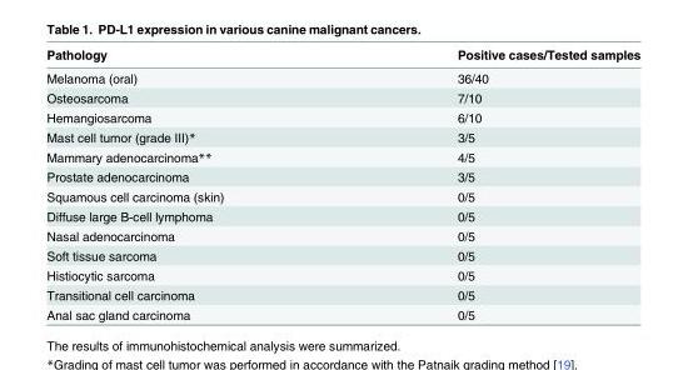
<table><thead><tr><td>Pathology</td><td>Positive cases/Tested samples</td></tr></thead><tbody><tr><td>Melanoma (oral)</td><td>36/40</td></tr><tr><td>Osteosarcoma</td><td>7/10</td></tr><tr><td>Hemangiosarcoma</td><td>6/10</td></tr><tr><td>Mast cell tumor (grade III)*</td><td>3/5</td></tr><tr><td>Mammary adenocarcinoma**</td><td>4/5</td></tr><tr><td>Prostate adenocarcinoma</td><td>3/5</td></tr><tr><td>Squamous cell carcinoma (skin)</td><td>0/5</td></tr><tr><td>Diffuse large B-cell lymphoma</td><td>0/5</td></tr><tr><td>Nasal adenocarcinoma</td><td>0/5</td></tr><tr><td>Soft tissue sarcoma</td><td>0/5</td></tr><tr><td>Histiocytic sarcoma</td><td>0/5</td></tr><tr><td>Transitional cell carcinoma</td><td>0/5</td></tr><tr><td>Anal sac gland carcinoma</td><td>0/5</td></tr></tbody></table>